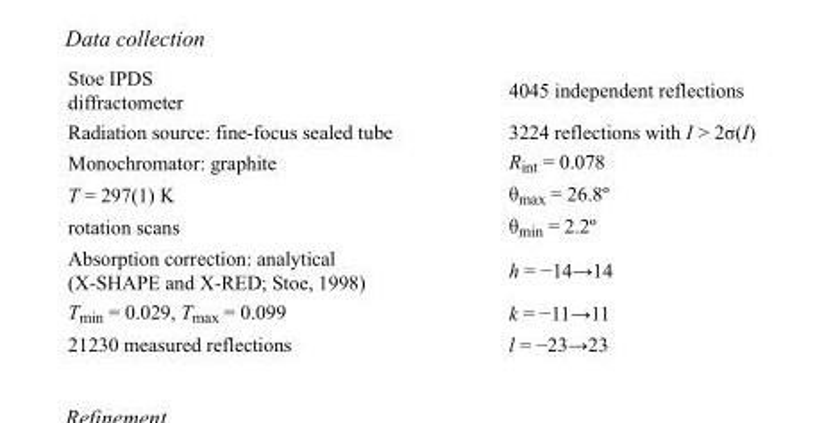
<table><tbody><tr><td>Stoe IPDS diffractometer</td><td>4045 independent reflections</td></tr><tr><td>Radiation source: fine-focus sealed tube</td><td>3224 reflections with I &gt; 2σ(I)</td></tr><tr><td>Monochromator: graphite</td><td>R<sub>int</sub> = 0.078</td></tr><tr><td>T = 297(1) K</td><td>θ<sub>max</sub> = 26.8º</td></tr><tr><td>rotation scans</td><td>θ<sub>min</sub> = 2.2º</td></tr><tr><td>Absorption correction: analytical (X-SHAPE and X-RED; Stoe, 1998)</td><td>h = −14→14</td></tr><tr><td>T<sub>min</sub> = 0.029, T<sub>max</sub> = 0.099</td><td>k = −11→11</td></tr><tr><td>21230 measured reflections</td><td>l = −23→23</td></tr></tbody></table>